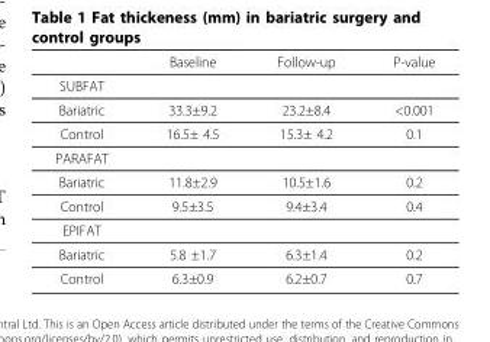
<table><thead><tr><td></td><td>Baseline</td><td>Follow-up</td><td>P-value</td></tr></thead><tbody><tr><td colspan="4">SUBFAT</td></tr><tr><td>Bariatric</td><td>33.3±9.2</td><td>23.2±8.4</td><td>&lt;0.001</td></tr><tr><td>Control</td><td>16.5± 4.5</td><td>15.3± 4.2</td><td>0.1</td></tr><tr><td colspan="4">PARAFAT</td></tr><tr><td>Bariatric</td><td>11.8±2.9</td><td>10.5±1.6</td><td>0.2</td></tr><tr><td>Control</td><td>9.5±3.5</td><td>9.4±3.4</td><td>0.4</td></tr><tr><td colspan="4">EPIFAT</td></tr><tr><td>Bariatric</td><td>5.8 ±1.7</td><td>6.3±1.4</td><td>0.2</td></tr><tr><td>Control</td><td>6.3±0.9</td><td>6.2±0.7</td><td>0.7</td></tr></tbody></table>